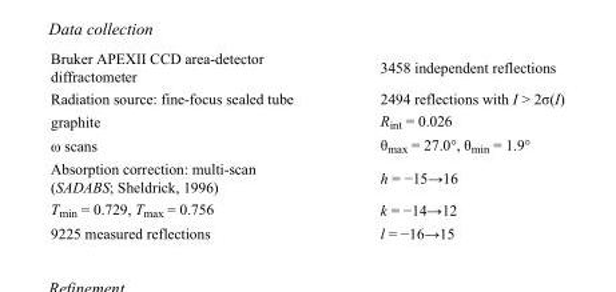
<table><tbody><tr><td>Bruker APEXII CCD area-detector diffractometer</td><td>3458 independent reflections</td></tr><tr><td>Radiation source: fine-focus sealed tube</td><td>2494 reflections with I &gt; 2σ(I)</td></tr><tr><td>graphite</td><td>R<sub>int</sub> = 0.026</td></tr><tr><td>ω scans</td><td>θ<sub>max</sub> = 27.0°, θ<sub>min</sub> = 1.9°</td></tr><tr><td>Absorption correction: multi-scan (SADABS; Sheldrick, 1996)</td><td>h = −15→16</td></tr><tr><td>T<sub>min</sub> = 0.729, T<sub>max</sub> = 0.756</td><td>k = −14→12</td></tr><tr><td>9225 measured reflections</td><td>l = −16→15</td></tr></tbody></table>